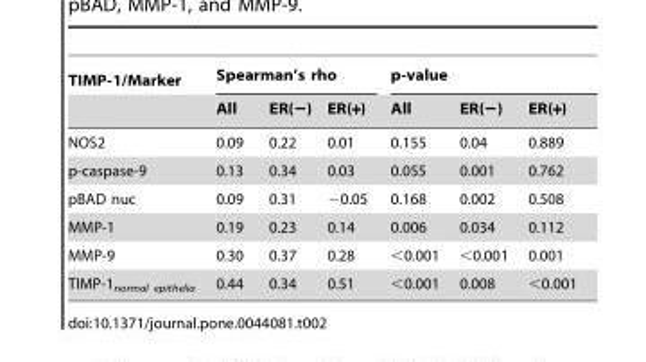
<table><thead><tr><td rowspan="2">TIMP-1/Marker</td><td colspan="3">Spearman’s rho</td><td colspan="3">p-value</td></tr><tr><td>All</td><td>ER(−)</td><td>ER(+)</td><td>All</td><td>ER(−)</td><td>ER(+)</td></tr></thead><tbody><tr><td>NOS2</td><td>0.09</td><td>0.22</td><td>0.01</td><td>0.155</td><td>0.04</td><td>0.889</td></tr><tr><td>p-caspase-9</td><td>0.13</td><td>0.34</td><td>0.03</td><td>0.055</td><td>0.001</td><td>0.762</td></tr><tr><td>pBAD nuc</td><td>0.09</td><td>0.31</td><td>−0.05</td><td>0.168</td><td>0.002</td><td>0.508</td></tr><tr><td>MMP-1</td><td>0.19</td><td>0.23</td><td>0.14</td><td>0.006</td><td>0.034</td><td>0.112</td></tr><tr><td>MMP-9</td><td>0.30</td><td>0.37</td><td>0.28</td><td>&lt;0.001</td><td>&lt;0.001</td><td>0.001</td></tr><tr><td>TIMP-1<sub>normal epithelia</sub></td><td>0.44</td><td>0.34</td><td>0.51</td><td>&lt;0.001</td><td>0.008</td><td>&lt;0.001</td></tr></tbody></table>